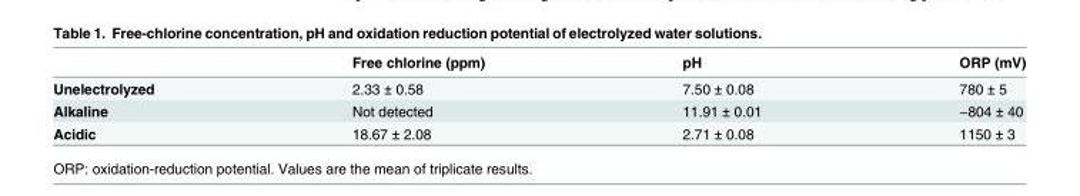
<table><thead><tr><td></td><td>Free chlorine (ppm)</td><td>pH</td><td>ORP (mV)</td></tr></thead><tbody><tr><td>Unelectrolyzed</td><td>2.33 ± 0.58</td><td>7.50 ± 0.08</td><td>780 ± 5</td></tr><tr><td>Alkaline</td><td>Not detected</td><td>11.91 ± 0.01</td><td>−804 ± 40</td></tr><tr><td>Acidic</td><td>18.67 ± 2.08</td><td>2.71 ± 0.08</td><td>1150 ± 3</td></tr></tbody></table>